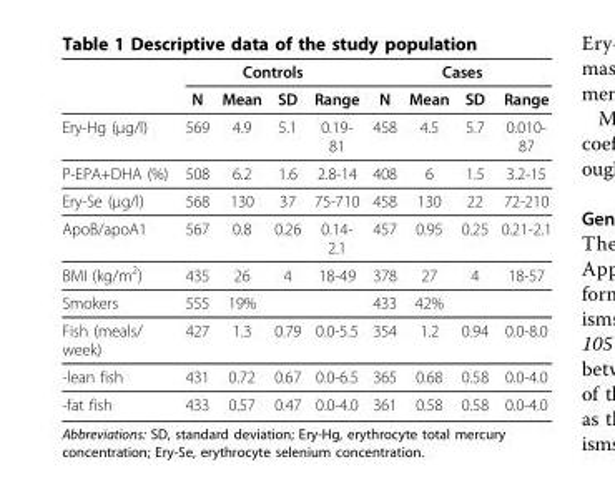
<table><thead><tr><td rowspan="2"></td><td colspan="4">Controls</td><td colspan="4">Cases</td></tr><tr><td>N</td><td>Mean</td><td>SD</td><td>Range</td><td>N</td><td>Mean</td><td>SD</td><td>Range</td></tr></thead><tbody><tr><td>Ery-Hg (μg/l)</td><td>569</td><td>4.9</td><td>5.1</td><td>0.19- 81</td><td>458</td><td>4.5</td><td>5.7</td><td>0.010- 87</td></tr><tr><td>P-EPA+DHA (%)</td><td>508</td><td>6.2</td><td>1.6</td><td>2.8-14</td><td>408</td><td>6</td><td>1.5</td><td>3.2-15</td></tr><tr><td>Ery-Se (μg/l)</td><td>568</td><td>130</td><td>37</td><td>75-710</td><td>458</td><td>130</td><td>22</td><td>72-210</td></tr><tr><td>ApoB/apoA1</td><td>567</td><td>0.8</td><td>0.26</td><td>0.14- 2.1</td><td>457</td><td>0.95</td><td>0.25</td><td>0.21-2.1</td></tr><tr><td>BMI (kg/m<sup>2</sup>)</td><td>435</td><td>26</td><td>4</td><td>18-49</td><td>378</td><td>27</td><td>4</td><td>18-57</td></tr><tr><td>Smokers</td><td>555</td><td>19%</td><td></td><td></td><td>433</td><td>42%</td><td></td><td></td></tr><tr><td>Fish (meals/ week)</td><td>427</td><td>1.3</td><td>0.79</td><td>0.0-5.5</td><td>354</td><td>1.2</td><td>0.94</td><td>0.0-8.0</td></tr><tr><td>-lean fish</td><td>431</td><td>0.72</td><td>0.67</td><td>0.0-6.5</td><td>365</td><td>0.68</td><td>0.58</td><td>0.0-4.0</td></tr><tr><td>-fat fish</td><td>433</td><td>0.57</td><td>0.47</td><td>0.0-4.0</td><td>361</td><td>0.58</td><td>0.58</td><td>0.0-4.0</td></tr></tbody></table>